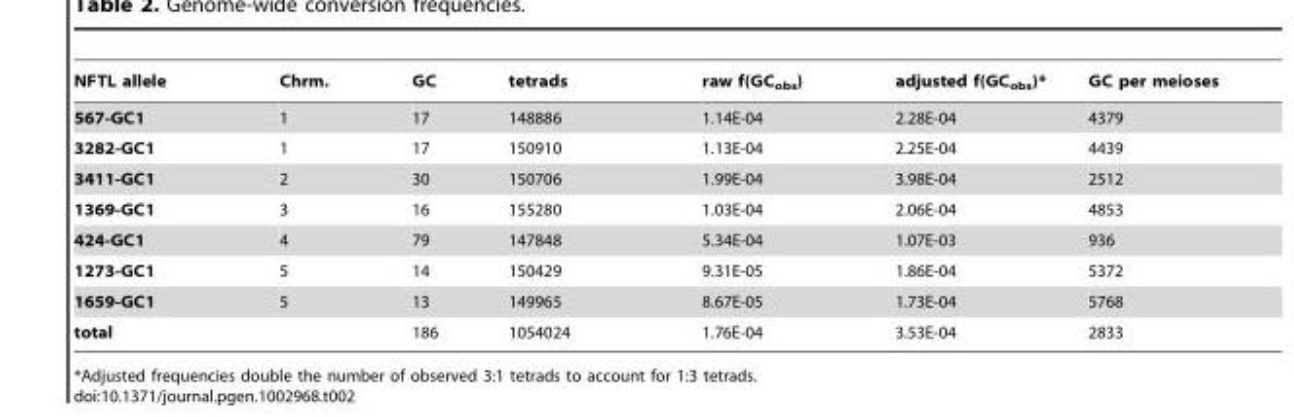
<table><thead><tr><td>NFTL allele</td><td>Chrm.</td><td>GC</td><td>tetrads</td><td>raw f(GC<sub>obs</sub>)</td><td>adjusted f(GC<sub>obs</sub>)*</td><td>GC per meioses</td></tr></thead><tbody><tr><td>567-GC1</td><td>1</td><td>17</td><td>148886</td><td>1.14E-04</td><td>2.28E-04</td><td>4379</td></tr><tr><td>3282-GC1</td><td>1</td><td>17</td><td>150910</td><td>1.13E-04</td><td>2.25E-04</td><td>4439</td></tr><tr><td>3411-GC1</td><td>2</td><td>30</td><td>150706</td><td>1.99E-04</td><td>3.98E-04</td><td>2512</td></tr><tr><td>1369-GC1</td><td>3</td><td>16</td><td>155280</td><td>1.03E-04</td><td>2.06E-04</td><td>4853</td></tr><tr><td>424-GC1</td><td>4</td><td>79</td><td>147848</td><td>5.34E-04</td><td>1.07E-03</td><td>936</td></tr><tr><td>1273-GC1</td><td>5</td><td>14</td><td>150429</td><td>9.31E-05</td><td>1.86E-04</td><td>5372</td></tr><tr><td>1659-GC1</td><td>5</td><td>13</td><td>149965</td><td>8.67E-05</td><td>1.73E-04</td><td>5768</td></tr><tr><td>total</td><td></td><td>186</td><td>1054024</td><td>1.76E-04</td><td>3.53E-04</td><td>2833</td></tr></tbody></table>